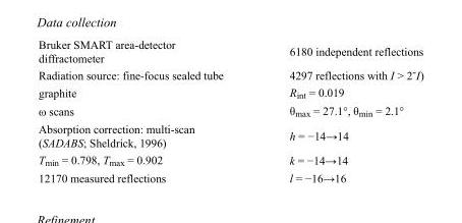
<table><tbody><tr><td>Bruker SMART area-detector diffractometer</td><td>6180 independent reflections</td></tr><tr><td>Radiation source: fine-focus sealed tube</td><td>4297 reflections with I &gt; 2˘I)</td></tr><tr><td>graphite</td><td>R<sub>int</sub> = 0.019</td></tr><tr><td>ω scans</td><td>θ<sub>max</sub> = 27.1°, θ<sub>min</sub> = 2.1°</td></tr><tr><td>Absorption correction: multi-scan (SADABS; Sheldrick, 1996)</td><td>h = −14→14</td></tr><tr><td>T<sub>min</sub> = 0.798, T<sub>max</sub> = 0.902</td><td>k = −14→14</td></tr><tr><td>12170 measured reflections</td><td>l = −16→16</td></tr></tbody></table>